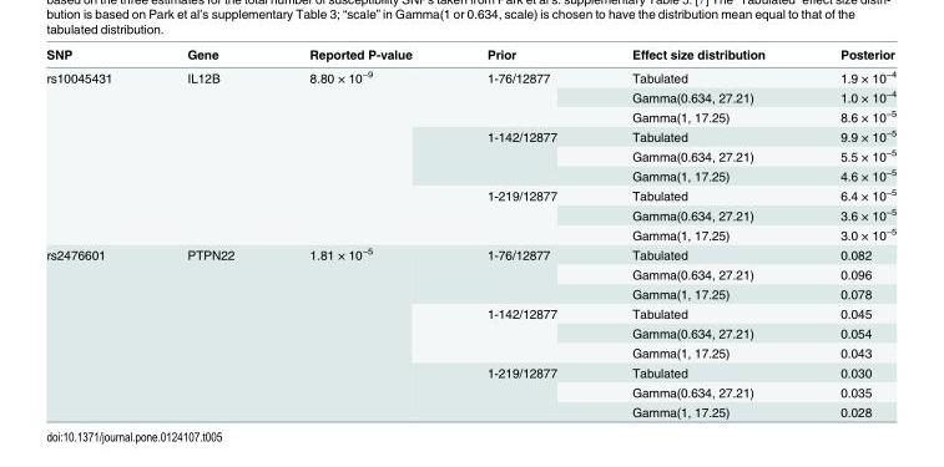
<table><thead><tr><td>SNP</td><td>Gene</td><td>Reported P-value</td><td>Prior</td><td>Effect size distribution</td><td>Posterior</td></tr></thead><tbody><tr><td rowspan="9">rs10045431</td><td rowspan="9">IL12B</td><td rowspan="9">8.80 × 10<sup>−9</sup></td><td rowspan="3">1-76/12877</td><td>Tabulated</td><td>1.9 × 10<sup>−4</sup></td></tr><tr><td>Gamma(0.634, 27.21)</td><td>1.0 × 10<sup>−4</sup></td></tr><tr><td>Gamma(1, 17.25)</td><td>8.6 × 10<sup>−5</sup></td></tr><tr><td rowspan="3">1-142/12877</td><td>Tabulated</td><td>9.9 × 10<sup>−5</sup></td></tr><tr><td>Gamma(0.634, 27.21)</td><td>5.5 × 10<sup>−5</sup></td></tr><tr><td>Gamma(1, 17.25)</td><td>4.6 × 10<sup>−5</sup></td></tr><tr><td rowspan="3">1-219/12877</td><td>Tabulated</td><td>6.4 × 10<sup>−5</sup></td></tr><tr><td>Gamma(0.634, 27.21)</td><td>3.6 × 10<sup>−5</sup></td></tr><tr><td>Gamma(1, 17.25)</td><td>3.0 × 10<sup>−5</sup></td></tr><tr><td rowspan="9">rs2476601</td><td rowspan="9">PTPN22</td><td rowspan="9">1.81 × 10<sup>−5</sup></td><td rowspan="3">1-76/12877</td><td>Tabulated</td><td>0.082</td></tr><tr><td>Gamma(0.634, 27.21)</td><td>0.096</td></tr><tr><td>Gamma(1, 17.25)</td><td>0.078</td></tr><tr><td rowspan="3">1-142/12877</td><td>Tabulated</td><td>0.045</td></tr><tr><td>Gamma(0.634, 27.21)</td><td>0.054</td></tr><tr><td>Gamma(1, 17.25)</td><td>0.043</td></tr><tr><td rowspan="3">1-219/12877</td><td>Tabulated</td><td>0.030</td></tr><tr><td>Gamma(0.634, 27.21)</td><td>0.035</td></tr><tr><td>Gamma(1, 17.25)</td><td>0.028</td></tr></tbody></table>